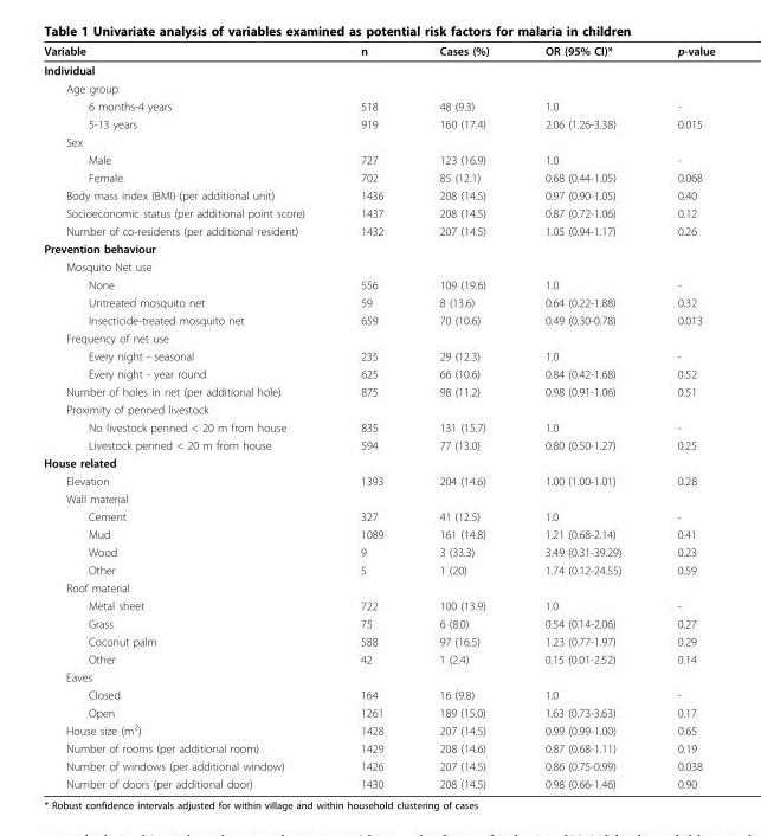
<table><thead><tr><td>Variable</td><td>n</td><td>Cases (%)</td><td>OR (95% CI)*</td><td>p-value</td></tr></thead><tbody><tr><td colspan="5">Individual</td></tr><tr><td colspan="5">Age group</td></tr><tr><td>6 months-4 years</td><td>518</td><td>48 (9.3)</td><td>1.0</td><td>-</td></tr><tr><td>5-13 years</td><td>919</td><td>160 (17.4)</td><td>2.06 (1.26-3.38)</td><td>0.015</td></tr><tr><td colspan="5">Sex</td></tr><tr><td>Male</td><td>727</td><td>123 (16.9)</td><td>1.0</td><td>-</td></tr><tr><td>Female</td><td>702</td><td>85 (12.1)</td><td>0.68 (0.44-1.05)</td><td>0.068</td></tr><tr><td>Body mass index (BMI) (per additional unit)</td><td>1436</td><td>208 (14.5)</td><td>0.97 (0.90-1.05)</td><td>0.40</td></tr><tr><td>Socioeconomic status (per additional point score)</td><td>1437</td><td>208 (14.5)</td><td>0.87 (0.72-1.06)</td><td>0.12</td></tr><tr><td>Number of co-residents (per additional resident)</td><td>1432</td><td>207 (14.5)</td><td>1.05 (0.94-1.17)</td><td>0.26</td></tr><tr><td colspan="5">Prevention behaviour</td></tr><tr><td colspan="5">Mosquito Net use</td></tr><tr><td>None</td><td>556</td><td>109 (19.6)</td><td>1.0</td><td>-</td></tr><tr><td>Untreated mosquito net</td><td>59</td><td>8 (13.6)</td><td>0.64 (0.22-1.88)</td><td>0.32</td></tr><tr><td>Insecticide-treated mosquito net</td><td>659</td><td>70 (10.6)</td><td>0.49 (0.30-0.78)</td><td>0.013</td></tr><tr><td colspan="5">Frequency of net use</td></tr><tr><td>Every night - seasonal</td><td>235</td><td>29 (12.3)</td><td>1.0</td><td>-</td></tr><tr><td>Every night - year round</td><td>625</td><td>66 (10.6)</td><td>0.84 (0.42-1.68)</td><td>0.52</td></tr><tr><td>Number of holes in net (per additional hole)</td><td>875</td><td>98 (11.2)</td><td>0.98 (0.91-1.06)</td><td>0.51</td></tr><tr><td colspan="5">Proximity of penned livestock</td></tr><tr><td>No livestock penned &lt; 20 m from house</td><td>835</td><td>131 (15.7)</td><td>1.0</td><td>-</td></tr><tr><td>Livestock penned &lt; 20 m from house</td><td>594</td><td>77 (13.0)</td><td>0.80 (0.50-1.27)</td><td>0.25</td></tr><tr><td colspan="5">House related</td></tr><tr><td>Elevation</td><td>1393</td><td>204 (14.6)</td><td>1.00 (1.00-1.01)</td><td>0.28</td></tr><tr><td colspan="5">Wall material</td></tr><tr><td>Cement</td><td>327</td><td>41 (12.5)</td><td>1.0</td><td>-</td></tr><tr><td>Mud</td><td>1089</td><td>161 (14.8)</td><td>1.21 (0.68-2.14)</td><td>0.41</td></tr><tr><td>Wood</td><td>9</td><td>3 (33.3)</td><td>3.49 (0.31-39.29)</td><td>0.23</td></tr><tr><td>Other</td><td>5</td><td>1 (20)</td><td>1.74 (0.12-24.55)</td><td>0.59</td></tr><tr><td colspan="5">Roof material</td></tr><tr><td>Metal sheet</td><td>722</td><td>100 (13.9)</td><td>1.0</td><td>-</td></tr><tr><td>Grass</td><td>75</td><td>6 (8.0)</td><td>0.54 (0.14-2.06)</td><td>0.27</td></tr><tr><td>Coconut palm</td><td>588</td><td>97 (16.5)</td><td>1.23 (0.77-1.97)</td><td>0.29</td></tr><tr><td>Other</td><td>42</td><td>1 (2.4)</td><td>0.15 (0.01-2.52)</td><td>0.14</td></tr><tr><td colspan="5">Eaves</td></tr><tr><td>Closed</td><td>164</td><td>16 (9.8)</td><td>1.0</td><td>-</td></tr><tr><td>Open</td><td>1261</td><td>189 (15.0)</td><td>1.63 (0.73-3.63)</td><td>0.17</td></tr><tr><td>House size (m<sup>2</sup>)</td><td>1428</td><td>207 (14.5)</td><td>0.99 (0.99-1.00)</td><td>0.65</td></tr><tr><td>Number of rooms (per additional room)</td><td>1429</td><td>208 (14.6)</td><td>0.87 (0.68-1.11)</td><td>0.19</td></tr><tr><td>Number of windows (per additional window)</td><td>1426</td><td>207 (14.5)</td><td>0.86 (0.75-0.99)</td><td>0.038</td></tr><tr><td>Number of doors (per additional door)</td><td>1430</td><td>208 (14.5)</td><td>0.98 (0.66-1.46)</td><td>0.90</td></tr></tbody></table>